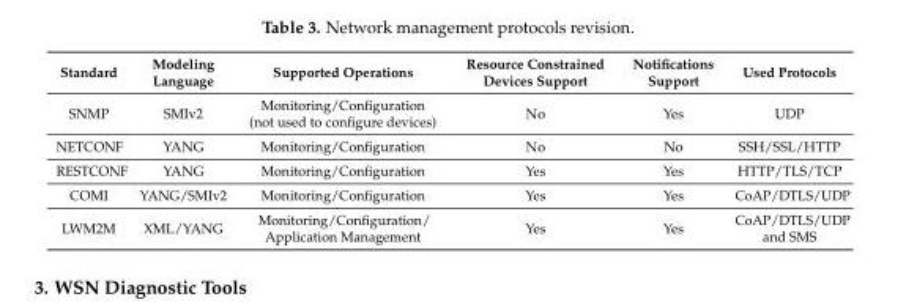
<table><thead><tr><td>Standard</td><td>Modeling Language</td><td>Supported Operations</td><td>Resource Constrained Devices Support</td><td>Notifications Support</td><td>Used Protocols</td></tr></thead><tbody><tr><td>SNMP</td><td>SMIv2</td><td>Monitoring/Configuration (not used to configure devices)</td><td>No</td><td>Yes</td><td>UDP</td></tr><tr><td>NETCONF</td><td>YANG</td><td>Monitoring/Configuration</td><td>No</td><td>No</td><td>SSH/SSL/HTTP</td></tr><tr><td>RESTCONF</td><td>YANG</td><td>Monitoring/Configuration</td><td>Yes</td><td>Yes</td><td>HTTP/TLS/TCP</td></tr><tr><td>COMI</td><td>YANG/SMIv2</td><td>Monitoring/Configuration</td><td>Yes</td><td>Yes</td><td>CoAP/DTLS/UDP</td></tr><tr><td>LWM2M</td><td>XML/YANG</td><td>Monitoring/Configuration/ Application Management</td><td>Yes</td><td>Yes</td><td>CoAP/DTLS/UDP and SMS</td></tr></tbody></table>